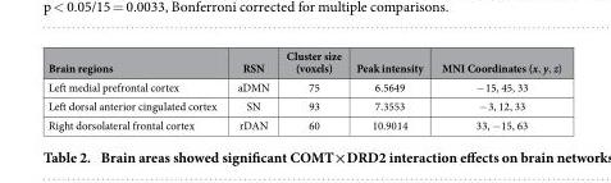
<table><thead><tr><td>Brain regions</td><td>RSN</td><td>Cluster size (voxels)</td><td>Peak intensity</td><td>MNI Coordinates (x, y, z)</td></tr></thead><tbody><tr><td>Left medial prefrontal cortex</td><td>aDMN</td><td>75</td><td>6.5649</td><td>− 15, 45, 33</td></tr><tr><td>Left dorsal anterior cingulated cortex</td><td>SN</td><td>93</td><td>7.3553</td><td>− 3, 12, 33</td></tr><tr><td>Right dorsolateral frontal cortex</td><td>rDAN</td><td>60</td><td>10.9014</td><td>33, −15, 63</td></tr></tbody></table>